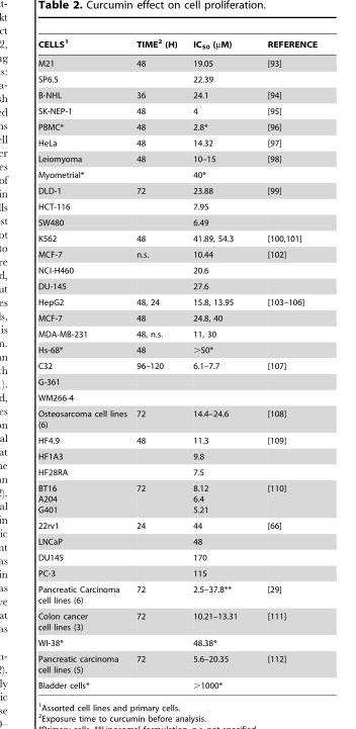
<table><thead><tr><td>CELLS<sup>1</sup></td><td>TIME<sup>2</sup> (H)</td><td>IC<sub>50</sub> (µM)</td><td>REFERENCE</td></tr></thead><tbody><tr><td>M21</td><td>48</td><td>19.05</td><td>[93]</td></tr><tr><td>SP6.5</td><td></td><td>22.39</td><td></td></tr><tr><td>B-NHL</td><td>36</td><td>24.1</td><td>[94]</td></tr><tr><td>SK-NEP-1</td><td>48</td><td>4</td><td>[95]</td></tr><tr><td>PBMC*</td><td>48</td><td>2.8*</td><td>[96]</td></tr><tr><td>HeLa</td><td>48</td><td>14.32</td><td>[97]</td></tr><tr><td>Leiomyoma</td><td>48</td><td>10–15</td><td>[98]</td></tr><tr><td>Myometrial*</td><td></td><td>40*</td><td></td></tr><tr><td>DLD-1</td><td>72</td><td>23.88</td><td>[99]</td></tr><tr><td>HCT-116</td><td></td><td>7.95</td><td></td></tr><tr><td>SW480</td><td></td><td>6.49</td><td></td></tr><tr><td>K562</td><td>48</td><td>41.89, 54.3</td><td>[100,101]</td></tr><tr><td>MCF-7</td><td>n.s.</td><td>10.44</td><td>[102]</td></tr><tr><td>NCI-H460</td><td></td><td>20.6</td><td></td></tr><tr><td>DU-145</td><td></td><td>27.6</td><td></td></tr><tr><td>HepG2</td><td>48, 24</td><td>15.8, 13.95</td><td>[103–106]</td></tr><tr><td>MCF-7</td><td>48</td><td>24.8, 40</td><td></td></tr><tr><td>MDA-MB-231</td><td>48, n.s.</td><td>11, 30</td><td></td></tr><tr><td>Hs-68*</td><td>48</td><td>&gt;50*</td><td></td></tr><tr><td>C32</td><td>96–120</td><td>6.1–7.7</td><td>[107]</td></tr><tr><td colspan="4">G-361</td></tr><tr><td colspan="4">WM266-4</td></tr><tr><td>Osteosarcoma cell lines (6)</td><td>72</td><td>14.4–24.6</td><td>[108]</td></tr><tr><td>HF4.9</td><td>48</td><td>11.3</td><td>[109]</td></tr><tr><td>HF1A3</td><td></td><td>9.8</td><td></td></tr><tr><td>HF28RA</td><td></td><td>7.5</td><td></td></tr><tr><td>BT16 A204 G401</td><td>72</td><td>8.12 6.4 5.21</td><td>[110]</td></tr><tr><td>22rv1</td><td>24</td><td>44</td><td>[66]</td></tr><tr><td>LNCaP</td><td></td><td>48</td><td></td></tr><tr><td>DU145</td><td></td><td>170</td><td></td></tr><tr><td>PC-3</td><td></td><td>115</td><td></td></tr><tr><td>Pancreatic Carcinoma cell lines (6)</td><td>72</td><td>2.5–37.8**</td><td>[29]</td></tr><tr><td>Colon cancer cell lines (3)</td><td>72</td><td>10.21–13.31</td><td>[111]</td></tr><tr><td>WI-38*</td><td></td><td>48.38*</td><td></td></tr><tr><td>Pancreatic carcinoma cell lines (5)</td><td>72</td><td>5.6–20.35</td><td>[112]</td></tr><tr><td>Bladder cells*</td><td></td><td>&gt;1000*</td><td></td></tr></tbody></table>